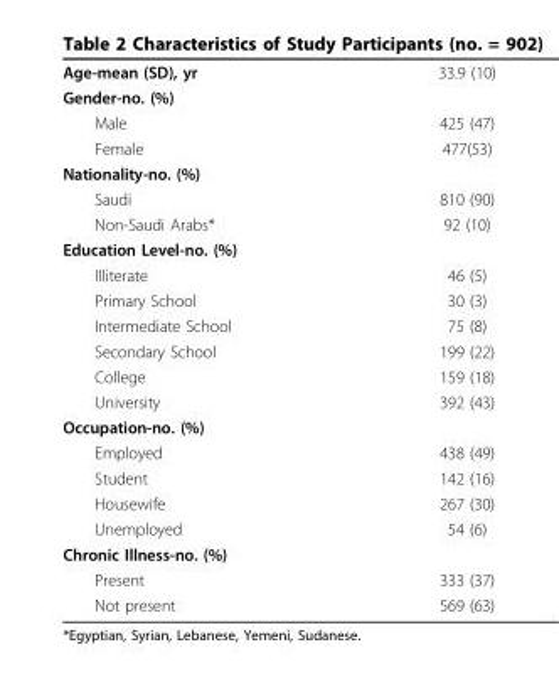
<table><tbody><tr><td>Age-mean (SD), yr</td><td>33.9 (10)</td></tr><tr><td colspan="2">Gender-no. (%)</td></tr><tr><td>Male</td><td>425 (47)</td></tr><tr><td>Female</td><td>477(53)</td></tr><tr><td colspan="2">Nationality-no. (%)</td></tr><tr><td>Saudi</td><td>810 (90)</td></tr><tr><td>Non-Saudi Arabs*</td><td>92 (10)</td></tr><tr><td colspan="2">Education Level-no. (%)</td></tr><tr><td>Illiterate</td><td>46 (5)</td></tr><tr><td>Primary School</td><td>30 (3)</td></tr><tr><td>Intermediate School</td><td>75 (8)</td></tr><tr><td>Secondary School</td><td>199 (22)</td></tr><tr><td>College</td><td>159 (18)</td></tr><tr><td>University</td><td>392 (43)</td></tr><tr><td colspan="2">Occupation-no. (%)</td></tr><tr><td>Employed</td><td>438 (49)</td></tr><tr><td>Student</td><td>142 (16)</td></tr><tr><td>Housewife</td><td>267 (30)</td></tr><tr><td>Unemployed</td><td>54 (6)</td></tr><tr><td colspan="2">Chronic Illness-no. (%)</td></tr><tr><td>Present</td><td>333 (37)</td></tr><tr><td>Not present</td><td>569 (63)</td></tr></tbody></table>